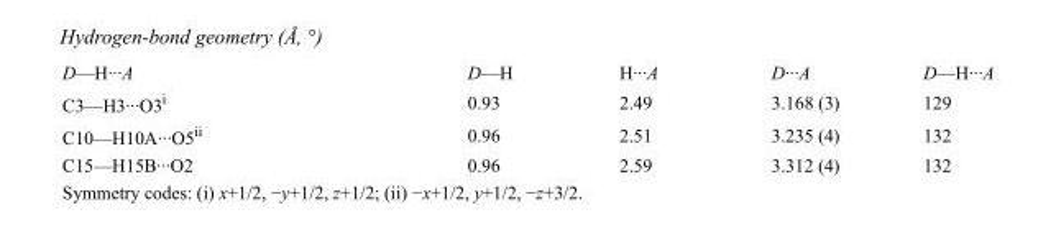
<table><tbody><tr><td>D—H···A</td><td>D—H</td><td>H···A</td><td>D···A</td><td>D—H···A</td></tr><tr><td>C3—H3···O3<sup>i</sup></td><td>0.93</td><td>2.49</td><td>3.168 (3)</td><td>129</td></tr><tr><td>C10—H10A···O5<sup>ii</sup></td><td>0.96</td><td>2.51</td><td>3.235 (4)</td><td>132</td></tr><tr><td>C15—H15B···O2</td><td>0.96</td><td>2.59</td><td>3.312 (4)</td><td>132</td></tr></tbody></table>